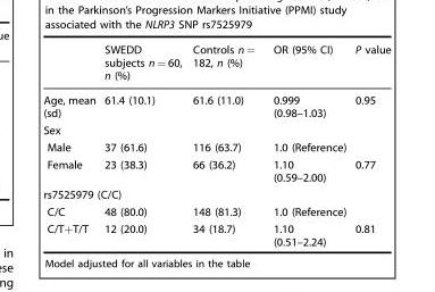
<table><thead><tr><td></td><td>SWEDD subjects n = 60, n (%)</td><td>Controls n = 182, n (%)</td><td>OR (95% CI)</td><td>P value</td></tr></thead><tbody><tr><td>Age, mean (sd)</td><td>61.4 (10.1)</td><td>61.6 (11.0)</td><td>0.999 (0.98–1.03)</td><td>0.95</td></tr><tr><td colspan="5">Sex</td></tr><tr><td>Male</td><td>37 (61.6)</td><td>116 (63.7)</td><td>1.0 (Reference)</td><td></td></tr><tr><td>Female</td><td>23 (38.3)</td><td>66 (36.2)</td><td>1.10 (0.59–2.00)</td><td>0.77</td></tr><tr><td colspan="5">rs7525979 (C/C)</td></tr><tr><td>C/C</td><td>48 (80.0)</td><td>148 (81.3)</td><td>1.0 (Reference)</td><td></td></tr><tr><td>C/T+T/T</td><td>12 (20.0)</td><td>34 (18.7)</td><td>1.10 (0.51–2.24)</td><td>0.81</td></tr></tbody></table>